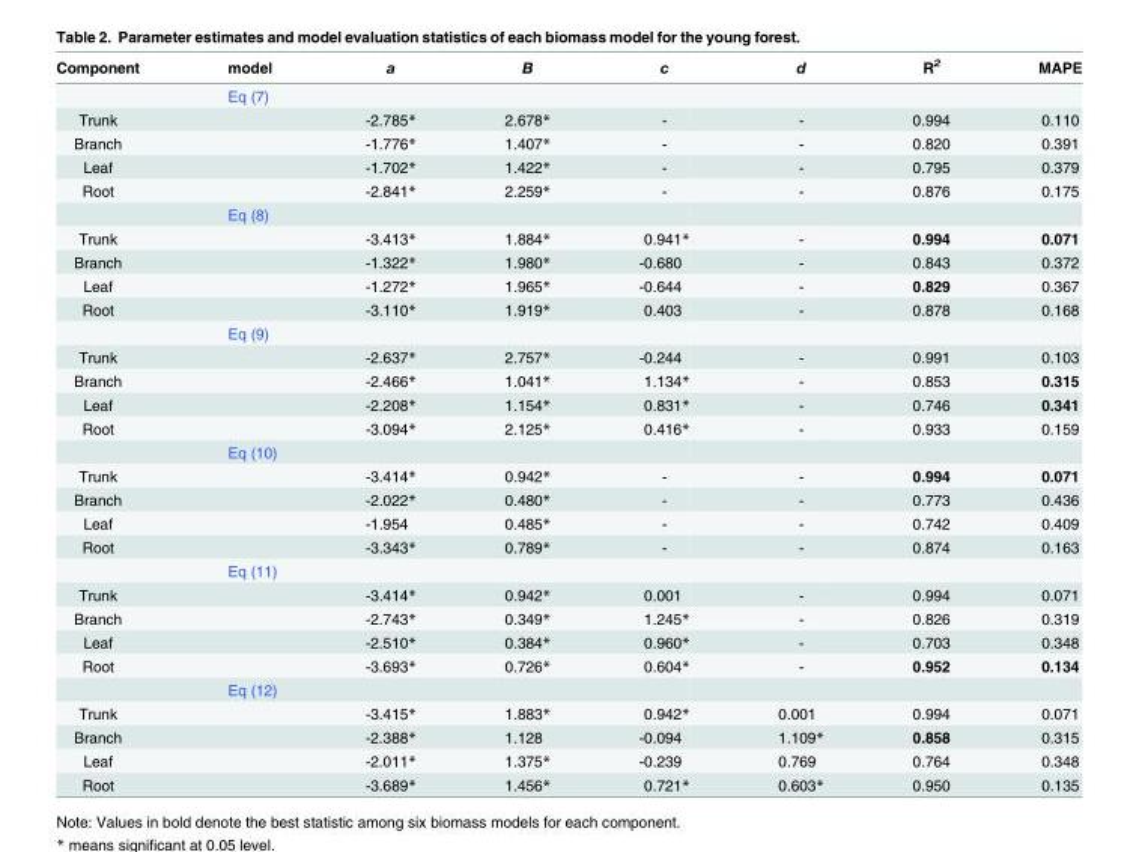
<table><thead><tr><td>Component</td><td>model</td><td>a</td><td>B</td><td>c</td><td>d</td><td>R<sup>2</sup></td><td>MAPE</td></tr></thead><tbody><tr><td></td><td>Eq (7)</td><td></td><td></td><td></td><td></td><td></td><td></td></tr><tr><td>Trunk</td><td></td><td>-2.785*</td><td>2.678*</td><td>-</td><td>-</td><td>0.994</td><td>0.110</td></tr><tr><td>Branch</td><td></td><td>-1.776*</td><td>1.407*</td><td>-</td><td>-</td><td>0.820</td><td>0.391</td></tr><tr><td>Leaf</td><td></td><td>-1.702*</td><td>1.422*</td><td>-</td><td>-</td><td>0.795</td><td>0.379</td></tr><tr><td rowspan="2">Root</td><td></td><td>-2.841*</td><td>2.259*</td><td>-</td><td>-</td><td>0.876</td><td>0.175</td></tr><tr><td>Eq (8)</td><td></td><td></td><td></td><td></td><td></td><td></td></tr><tr><td>Trunk</td><td></td><td>-3.413*</td><td>1.884*</td><td>0.941*</td><td>-</td><td>0.994</td><td>0.071</td></tr><tr><td>Branch</td><td></td><td>-1.322*</td><td>1.980*</td><td>-0.680</td><td>-</td><td>0.843</td><td>0.372</td></tr><tr><td>Leaf</td><td></td><td>-1.272*</td><td>1.965*</td><td>-0.644</td><td>-</td><td>0.829</td><td>0.367</td></tr><tr><td rowspan="2">Root</td><td></td><td>-3.110*</td><td>1.919*</td><td>0.403</td><td>-</td><td>0.878</td><td>0.168</td></tr><tr><td>Eq (9)</td><td></td><td></td><td></td><td></td><td></td><td></td></tr><tr><td>Trunk</td><td></td><td>-2.637*</td><td>2.757*</td><td>-0.244</td><td>-</td><td>0.991</td><td>0.103</td></tr><tr><td>Branch</td><td></td><td>-2.466*</td><td>1.041*</td><td>1.134*</td><td>-</td><td>0.853</td><td>0.315</td></tr><tr><td>Leaf</td><td></td><td>-2.208*</td><td>1.154*</td><td>0.831*</td><td>-</td><td>0.746</td><td>0.341</td></tr><tr><td rowspan="2">Root</td><td></td><td>-3.094*</td><td>2.125*</td><td>0.416*</td><td>-</td><td>0.933</td><td>0.159</td></tr><tr><td>Eq (10)</td><td></td><td></td><td></td><td></td><td></td><td></td></tr><tr><td>Trunk</td><td></td><td>-3.414*</td><td>0.942*</td><td>-</td><td>-</td><td>0.994</td><td>0.071</td></tr><tr><td>Branch</td><td></td><td>-2.022*</td><td>0.480*</td><td>-</td><td>-</td><td>0.773</td><td>0.436</td></tr><tr><td>Leaf</td><td></td><td>-1.954</td><td>0.485*</td><td>-</td><td>-</td><td>0.742</td><td>0.409</td></tr><tr><td rowspan="2">Root</td><td></td><td>-3.343*</td><td>0.789*</td><td>-</td><td>-</td><td>0.874</td><td>0.163</td></tr><tr><td>Eq (11)</td><td></td><td></td><td></td><td></td><td></td><td></td></tr><tr><td>Trunk</td><td></td><td>-3.414*</td><td>0.942*</td><td>0.001</td><td>-</td><td>0.994</td><td>0.071</td></tr><tr><td>Branch</td><td></td><td>-2.743*</td><td>0.349*</td><td>1.245*</td><td>-</td><td>0.826</td><td>0.319</td></tr><tr><td>Leaf</td><td></td><td>-2.510*</td><td>0.384*</td><td>0.960*</td><td>-</td><td>0.703</td><td>0.348</td></tr><tr><td rowspan="2">Root</td><td></td><td>-3.693*</td><td>0.726*</td><td>0.604*</td><td>-</td><td>0.952</td><td>0.134</td></tr><tr><td>Eq (12)</td><td></td><td></td><td></td><td></td><td></td><td></td></tr><tr><td>Trunk</td><td></td><td>-3.415*</td><td>1.883*</td><td>0.942*</td><td>0.001</td><td>0.994</td><td>0.071</td></tr><tr><td>Branch</td><td></td><td>-2.388*</td><td>1.128</td><td>-0.094</td><td>1.109*</td><td>0.858</td><td>0.315</td></tr><tr><td>Leaf</td><td></td><td>-2.011*</td><td>1.375*</td><td>-0.239</td><td>0.769</td><td>0.764</td><td>0.348</td></tr><tr><td>Root</td><td></td><td>-3.689*</td><td>1.456*</td><td>0.721*</td><td>0.603*</td><td>0.950</td><td>0.135</td></tr></tbody></table>